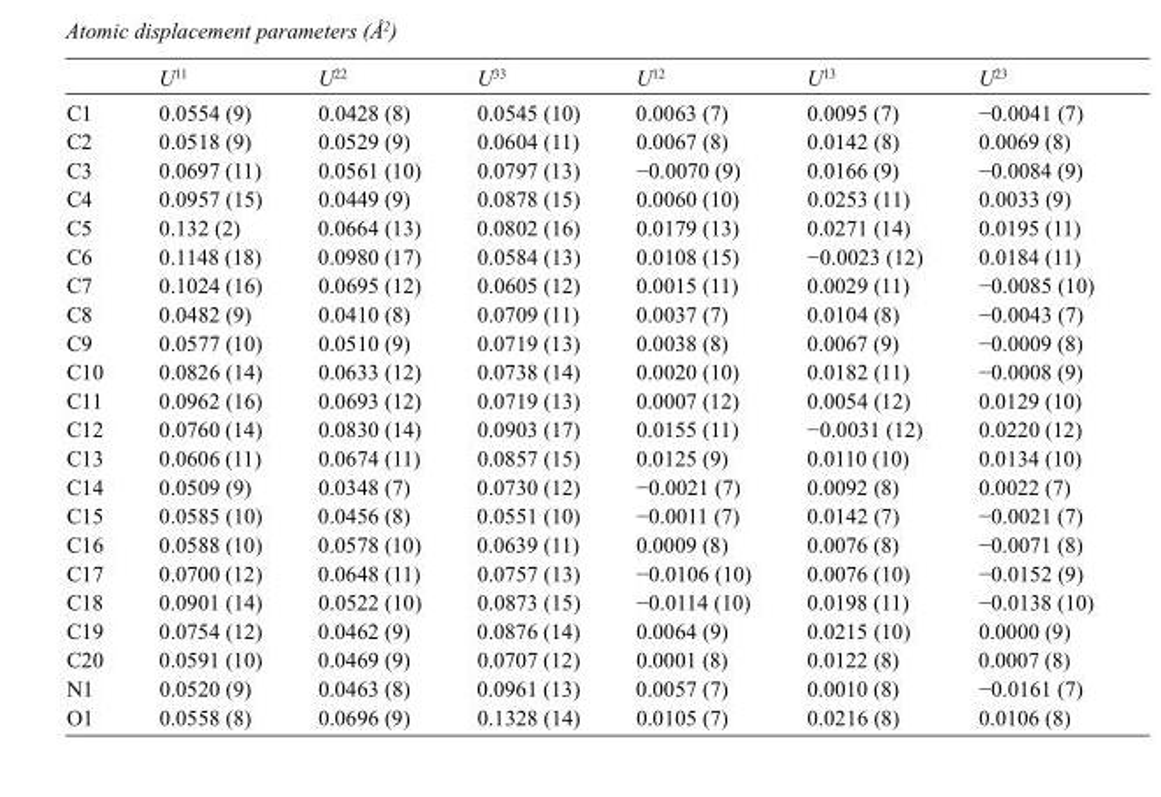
<table><thead><tr><td></td><td>U<sup>11</sup></td><td>U<sup>22</sup></td><td>U<sup>33</sup></td><td>U<sup>12</sup></td><td>U<sup>13</sup></td><td>U<sup>23</sup></td></tr></thead><tbody><tr><td>C1</td><td>0.0554 (9)</td><td>0.0428 (8)</td><td>0.0545 (10)</td><td>0.0063 (7)</td><td>0.0095 (7)</td><td>−0.0041 (7)</td></tr><tr><td>C2</td><td>0.0518 (9)</td><td>0.0529 (9)</td><td>0.0604 (11)</td><td>0.0067 (8)</td><td>0.0142 (8)</td><td>0.0069 (8)</td></tr><tr><td>C3</td><td>0.0697 (11)</td><td>0.0561 (10)</td><td>0.0797 (13)</td><td>−0.0070 (9)</td><td>0.0166 (9)</td><td>−0.0084 (9)</td></tr><tr><td>C4</td><td>0.0957 (15)</td><td>0.0449 (9)</td><td>0.0878 (15)</td><td>0.0060 (10)</td><td>0.0253 (11)</td><td>0.0033 (9)</td></tr><tr><td>C5</td><td>0.132 (2)</td><td>0.0664 (13)</td><td>0.0802 (16)</td><td>0.0179 (13)</td><td>0.0271 (14)</td><td>0.0195 (11)</td></tr><tr><td>C6</td><td>0.1148 (18)</td><td>0.0980 (17)</td><td>0.0584 (13)</td><td>0.0108 (15)</td><td>−0.0023 (12)</td><td>0.0184 (11)</td></tr><tr><td>C7</td><td>0.1024 (16)</td><td>0.0695 (12)</td><td>0.0605 (12)</td><td>0.0015 (11)</td><td>0.0029 (11)</td><td>−0.0085 (10)</td></tr><tr><td>C8</td><td>0.0482 (9)</td><td>0.0410 (8)</td><td>0.0709 (11)</td><td>0.0037 (7)</td><td>0.0104 (8)</td><td>−0.0043 (7)</td></tr><tr><td>C9</td><td>0.0577 (10)</td><td>0.0510 (9)</td><td>0.0719 (13)</td><td>0.0038 (8)</td><td>0.0067 (9)</td><td>−0.0009 (8)</td></tr><tr><td>C10</td><td>0.0826 (14)</td><td>0.0633 (12)</td><td>0.0738 (14)</td><td>0.0020 (10)</td><td>0.0182 (11)</td><td>−0.0008 (9)</td></tr><tr><td>C11</td><td>0.0962 (16)</td><td>0.0693 (12)</td><td>0.0719 (13)</td><td>0.0007 (12)</td><td>0.0054 (12)</td><td>0.0129 (10)</td></tr><tr><td>C12</td><td>0.0760 (14)</td><td>0.0830 (14)</td><td>0.0903 (17)</td><td>0.0155 (11)</td><td>−0.0031 (12)</td><td>0.0220 (12)</td></tr><tr><td>C13</td><td>0.0606 (11)</td><td>0.0674 (11)</td><td>0.0857 (15)</td><td>0.0125 (9)</td><td>0.0110 (10)</td><td>0.0134 (10)</td></tr><tr><td>C14</td><td>0.0509 (9)</td><td>0.0348 (7)</td><td>0.0730 (12)</td><td>−0.0021 (7)</td><td>0.0092 (8)</td><td>0.0022 (7)</td></tr><tr><td>C15</td><td>0.0585 (10)</td><td>0.0456 (8)</td><td>0.0551 (10)</td><td>−0.0011 (7)</td><td>0.0142 (7)</td><td>−0.0021 (7)</td></tr><tr><td>C16</td><td>0.0588 (10)</td><td>0.0578 (10)</td><td>0.0639 (11)</td><td>0.0009 (8)</td><td>0.0076 (8)</td><td>−0.0071 (8)</td></tr><tr><td>C17</td><td>0.0700 (12)</td><td>0.0648 (11)</td><td>0.0757 (13)</td><td>−0.0106 (10)</td><td>0.0076 (10)</td><td>−0.0152 (9)</td></tr><tr><td>C18</td><td>0.0901 (14)</td><td>0.0522 (10)</td><td>0.0873 (15)</td><td>−0.0114 (10)</td><td>0.0198 (11)</td><td>−0.0138 (10)</td></tr><tr><td>C19</td><td>0.0754 (12)</td><td>0.0462 (9)</td><td>0.0876 (14)</td><td>0.0064 (9)</td><td>0.0215 (10)</td><td>0.0000 (9)</td></tr><tr><td>C20</td><td>0.0591 (10)</td><td>0.0469 (9)</td><td>0.0707 (12)</td><td>0.0001 (8)</td><td>0.0122 (8)</td><td>0.0007 (8)</td></tr><tr><td>N1</td><td>0.0520 (9)</td><td>0.0463 (8)</td><td>0.0961 (13)</td><td>0.0057 (7)</td><td>0.0010 (8)</td><td>−0.0161 (7)</td></tr><tr><td>O1</td><td>0.0558 (8)</td><td>0.0696 (9)</td><td>0.1328 (14)</td><td>0.0105 (7)</td><td>0.0216 (8)</td><td>0.0106 (8)</td></tr></tbody></table>